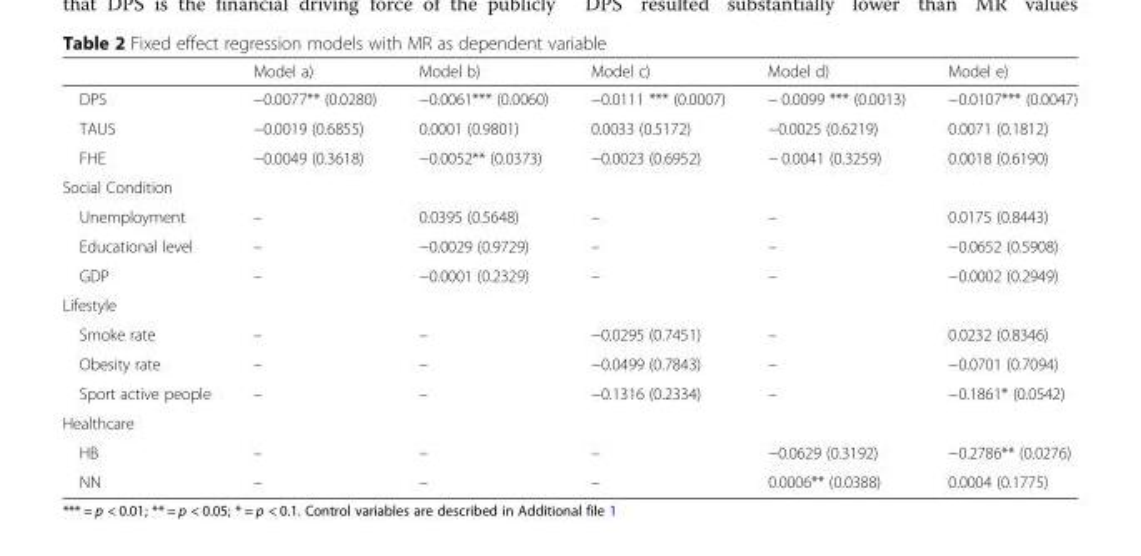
<table><thead><tr><td></td><td>Model a)</td><td>Model b)</td><td>Model c)</td><td>Model d)</td><td>Model e)</td></tr></thead><tbody><tr><td>DPS</td><td>−0.0077** (0.0280)</td><td>−0.0061*** (0.0060)</td><td>−0.0111 *** (0.0007)</td><td>− 0.0099 *** (0.0013)</td><td>−0.0107*** (0.0047)</td></tr><tr><td>TAUS</td><td>−0.0019 (0.6855)</td><td>0.0001 (0.9801)</td><td>0.0033 (0.5172)</td><td>−0.0025 (0.6219)</td><td>0.0071 (0.1812)</td></tr><tr><td>FHE</td><td>−0.0049 (0.3618)</td><td>−0.0052** (0.0373)</td><td>−0.0023 (0.6952)</td><td>− 0.0041 (0.3259)</td><td>0.0018 (0.6190)</td></tr><tr><td colspan="6">Social Condition</td></tr><tr><td>Unemployment</td><td>–</td><td>0.0395 (0.5648)</td><td>–</td><td>–</td><td>0.0175 (0.8443)</td></tr><tr><td>Educational level</td><td>–</td><td>−0.0029 (0.9729)</td><td>–</td><td>–</td><td>−0.0652 (0.5908)</td></tr><tr><td>GDP</td><td>–</td><td>−0.0001 (0.2329)</td><td>–</td><td>–</td><td>−0.0002 (0.2949)</td></tr><tr><td colspan="6">Lifestyle</td></tr><tr><td>Smoke rate</td><td>–</td><td>–</td><td>−0.0295 (0.7451)</td><td>–</td><td>0.0232 (0.8346)</td></tr><tr><td>Obesity rate</td><td>–</td><td>–</td><td>−0.0499 (0.7843)</td><td>–</td><td>−0.0701 (0.7094)</td></tr><tr><td>Sport active people</td><td>–</td><td>–</td><td>−0.1316 (0.2334)</td><td>–</td><td>−0.1861* (0.0542)</td></tr><tr><td colspan="6">Healthcare</td></tr><tr><td>HB</td><td>–</td><td>–</td><td>–</td><td>−0.0629 (0.3192)</td><td>−0.2786** (0.0276)</td></tr><tr><td>NN</td><td>–</td><td>–</td><td>–</td><td>0.0006** (0.0388)</td><td>0.0004 (0.1775)</td></tr></tbody></table>